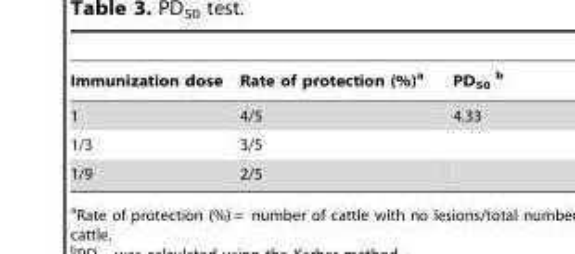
<table><thead><tr><td>Immunization dose</td><td>Rate of protection (%)<sup>a</sup></td><td>PD<sub>50</sub> b</td></tr></thead><tbody><tr><td>1</td><td>4/5</td><td>4.33</td></tr><tr><td>1/3</td><td>3/5</td><td></td></tr><tr><td>1/9</td><td>2/5</td><td></td></tr></tbody></table>